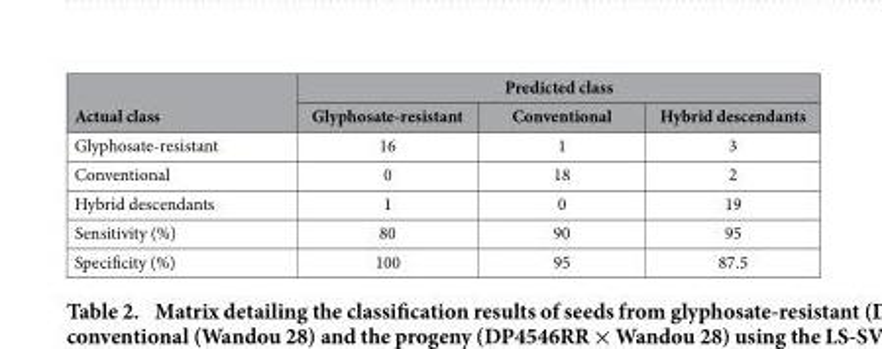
<table><thead><tr><td rowspan="2">Actual class</td><td colspan="3">Predicted class</td></tr><tr><td>Glyphosate-resistant</td><td>Conventional</td><td>Hybrid descendants</td></tr></thead><tbody><tr><td>Glyphosate-resistant</td><td>16</td><td>1</td><td>3</td></tr><tr><td>Conventional</td><td>0</td><td>18</td><td>2</td></tr><tr><td>Hybrid descendants</td><td>1</td><td>0</td><td>19</td></tr><tr><td>Sensitivity (%)</td><td>80</td><td>90</td><td>95</td></tr><tr><td>Specificity (%)</td><td>100</td><td>95</td><td>87.5</td></tr></tbody></table>